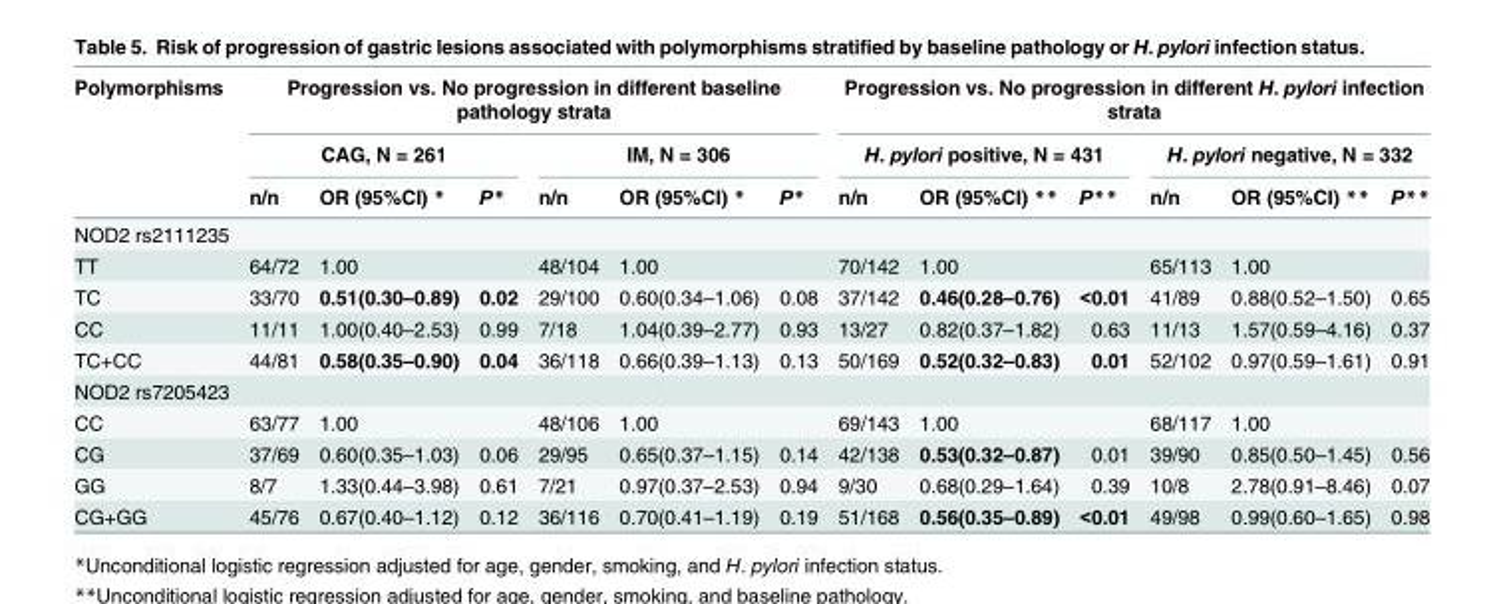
<table><thead><tr><td rowspan="3">Polymorphisms</td><td colspan="6">Progression vs. No progression in different baseline pathology strata</td><td colspan="6">Progression vs. No progression in different H. pylori infection strata</td></tr><tr><td colspan="3">CAG, N = 261</td><td colspan="3">IM, N = 306</td><td colspan="3">H. pylori positive, N = 431</td><td colspan="3">H. pylori negative, N = 332</td></tr><tr><td>n/n</td><td>OR (95%CI) *</td><td>P*</td><td>n/n</td><td>OR (95%CI) *</td><td>P*</td><td>n/n</td><td>OR (95%CI) **</td><td>P**</td><td>n/n</td><td>OR (95%CI) **</td><td>P**</td></tr></thead><tbody><tr><td colspan="13">NOD2 rs2111235</td></tr><tr><td>TT</td><td>64/72</td><td>1.00</td><td></td><td>48/104</td><td>1.00</td><td></td><td>70/142</td><td>1.00</td><td></td><td>65/113</td><td>1.00</td><td></td></tr><tr><td>TC</td><td>33/70</td><td>0.51(0.30–0.89)</td><td>0.02</td><td>29/100</td><td>0.60(0.34–1.06)</td><td>0.08</td><td>37/142</td><td>0.46(0.28–0.76)</td><td>&lt;0.01</td><td>41/89</td><td>0.88(0.52–1.50)</td><td>0.65</td></tr><tr><td>CC</td><td>11/11</td><td>1.00(0.40–2.53)</td><td>0.99</td><td>7/18</td><td>1.04(0.39–2.77)</td><td>0.93</td><td>13/27</td><td>0.82(0.37–1.82)</td><td>0.63</td><td>11/13</td><td>1.57(0.59–4.16)</td><td>0.37</td></tr><tr><td>TC+CC</td><td>44/81</td><td>0.58(0.35–0.90)</td><td>0.04</td><td>36/118</td><td>0.66(0.39–1.13)</td><td>0.13</td><td>50/169</td><td>0.52(0.32–0.83)</td><td>0.01</td><td>52/102</td><td>0.97(0.59–1.61)</td><td>0.91</td></tr><tr><td colspan="13">NOD2 rs7205423</td></tr><tr><td>CC</td><td>63/77</td><td>1.00</td><td></td><td>48/106</td><td>1.00</td><td></td><td>69/143</td><td>1.00</td><td></td><td>68/117</td><td>1.00</td><td></td></tr><tr><td>CG</td><td>37/69</td><td>0.60(0.35–1.03)</td><td>0.06</td><td>29/95</td><td>0.65(0.37–1.15)</td><td>0.14</td><td>42/138</td><td>0.53(0.32–0.87)</td><td>0.01</td><td>39/90</td><td>0.85(0.50–1.45)</td><td>0.56</td></tr><tr><td>GG</td><td>8/7</td><td>1.33(0.44–3.98)</td><td>0.61</td><td>7/21</td><td>0.97(0.37–2.53)</td><td>0.94</td><td>9/30</td><td>0.68(0.29–1.64)</td><td>0.39</td><td>10/8</td><td>2.78(0.91–8.46)</td><td>0.07</td></tr><tr><td>CG+GG</td><td>45/76</td><td>0.67(0.40–1.12)</td><td>0.12</td><td>36/116</td><td>0.70(0.41–1.19)</td><td>0.19</td><td>51/168</td><td>0.56(0.35–0.89)</td><td>&lt;0.01</td><td>49/98</td><td>0.99(0.60–1.65)</td><td>0.98</td></tr></tbody></table>